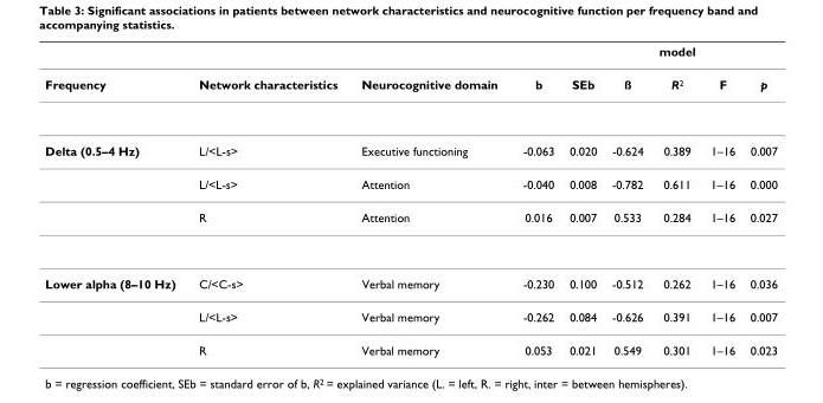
<table><thead><tr><td></td><td></td><td></td><td></td><td></td><td></td><td>model</td><td></td><td></td></tr></thead><tbody><tr><td>Frequency</td><td>Network characteristics</td><td>Neurocognitive domain</td><td>b</td><td>SEb</td><td>ß</td><td>R2</td><td>F</td><td>p</td></tr><tr><td rowspan="3">Delta (0.5–4 Hz)</td><td>L/&lt;L-s&gt;</td><td>Executive functioning</td><td>-0.063</td><td>0.020</td><td>-0.624</td><td>0.389</td><td>1–16</td><td>0.007</td></tr><tr><td>L/&lt;L-s&gt;</td><td>Attention</td><td>-0.040</td><td>0.008</td><td>-0.782</td><td>0.611</td><td>1–16</td><td>0.000</td></tr><tr><td>R</td><td>Attention</td><td>0.016</td><td>0.007</td><td>0.533</td><td>0.284</td><td>1–16</td><td>0.027</td></tr><tr><td rowspan="3">Lower alpha (8–10 Hz)</td><td>C/&lt;C-s&gt;</td><td>Verbal memory</td><td>-0.230</td><td>0.100</td><td>-0.512</td><td>0.262</td><td>1–16</td><td>0.036</td></tr><tr><td>L/&lt;L-s&gt;</td><td>Verbal memory</td><td>-0.262</td><td>0.084</td><td>-0.626</td><td>0.391</td><td>1–16</td><td>0.007</td></tr><tr><td>R</td><td>Verbal memory</td><td>0.053</td><td>0.021</td><td>0.549</td><td>0.301</td><td>1–16</td><td>0.023</td></tr></tbody></table>